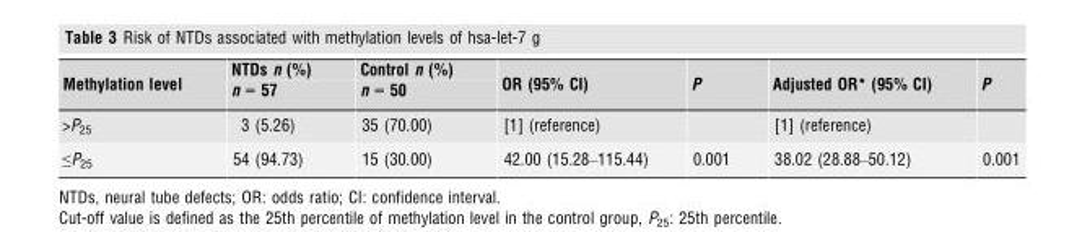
<table><thead><tr><td rowspan="2">Methylation level</td><td rowspan="2">NTDs n (%) n = 57</td><td rowspan="2">Control n (%) n = 50</td><td rowspan="2">OR (95% CI)</td><td rowspan="2">P</td><td rowspan="2">Adjusted OR* (95% CI)</td><td rowspan="2">P</td></tr><tr></tr></thead><tbody><tr><td>&gt;P<sub>25</sub></td><td>3 (5.26)</td><td>35 (70.00)</td><td>[1] (reference)</td><td></td><td>[1] (reference)</td><td></td></tr><tr><td>≤P<sub>25</sub></td><td>54 (94.73)</td><td>15 (30.00)</td><td>42.00 (15.28–115.44)</td><td>0.001</td><td>38.02 (28.88–50.12)</td><td>0.001</td></tr></tbody></table>